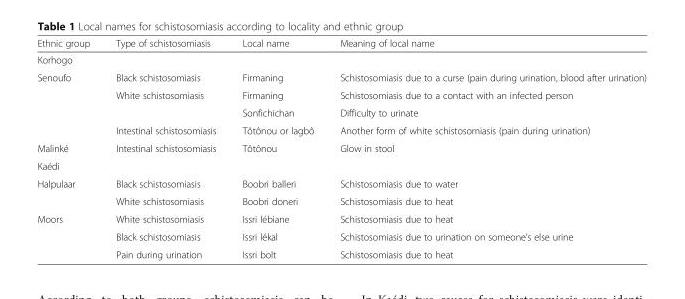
<table><thead><tr><td>Ethnic group</td><td>Type of schistosomiasis</td><td>Local name</td><td>Meaning of local name</td></tr></thead><tbody><tr><td colspan="4">Korhogo</td></tr><tr><td rowspan="4">Senoufo</td><td>Black schistosomiasis</td><td>Firmaning</td><td>Schistosomiasis due to a curse (pain during urination, blood after urination)</td></tr><tr><td>White schistosomiasis</td><td>Firmaning</td><td>Schistosomiasis due to a contact with an infected person</td></tr><tr><td></td><td>Sonfichichan</td><td>Difficulty to urinate</td></tr><tr><td>Intestinal schistosomiasis</td><td>Tôtônou or lagbô</td><td>Another form of white schistosomiasis (pain during urination)</td></tr><tr><td>Malinké</td><td>Intestinal schistosomiasis</td><td>Tôtônou</td><td>Glow in stool</td></tr><tr><td colspan="4">Kaédi</td></tr><tr><td rowspan="2">Halpulaar</td><td>Black schistosomiasis</td><td>Boobri balleri</td><td>Schistosomiasis due to water</td></tr><tr><td>White schistosomiasis</td><td>Boobri doneri</td><td>Schistosomiasis due to heat</td></tr><tr><td rowspan="3">Moors</td><td>White schistosomiasis</td><td>Issri lébiane</td><td>Schistosomiasis due to heat</td></tr><tr><td>Black schistosomiasis</td><td>Issri lékal</td><td>Schistosomiasis due to urination on someone’s else urine</td></tr><tr><td>Pain during urination</td><td>Issri bolt</td><td>Schistosomiasis due to heat</td></tr></tbody></table>